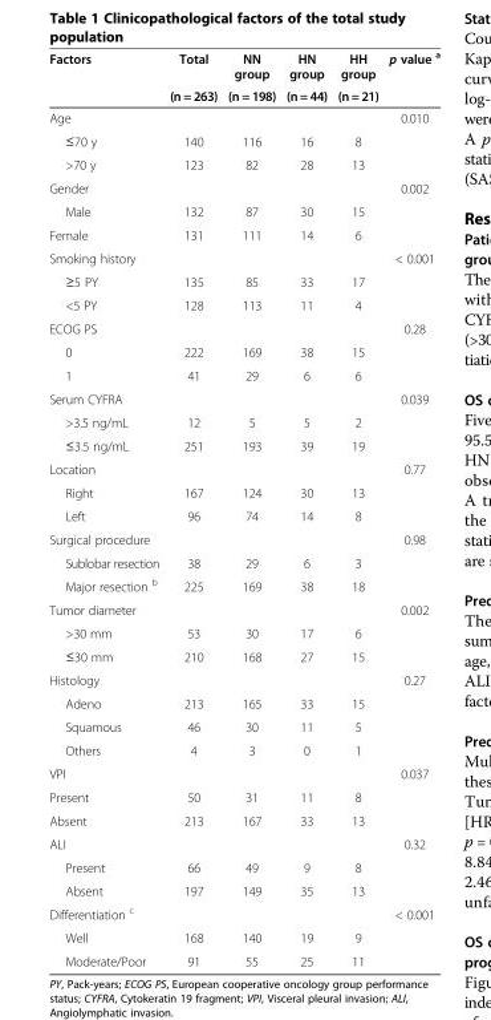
<table><thead><tr><td rowspan="2">Factors</td><td rowspan="2">Total (n = 263)</td><td rowspan="2">NN group (n = 198)</td><td rowspan="2">HN group (n = 44)</td><td rowspan="2">HH group (n = 21)</td><td rowspan="2">p value <sup>a</sup></td></tr><tr></tr></thead><tbody><tr><td>Age</td><td></td><td></td><td></td><td></td><td>0.010</td></tr><tr><td>≤70 y</td><td>140</td><td>116</td><td>16</td><td>8</td><td></td></tr><tr><td>&gt;70 y</td><td>123</td><td>82</td><td>28</td><td>13</td><td></td></tr><tr><td>Gender</td><td></td><td></td><td></td><td></td><td>0.002</td></tr><tr><td>Male</td><td>132</td><td>87</td><td>30</td><td>15</td><td></td></tr><tr><td>Female</td><td>131</td><td>111</td><td>14</td><td>6</td><td></td></tr><tr><td>Smoking history</td><td></td><td></td><td></td><td></td><td>&lt; 0.001</td></tr><tr><td>≥5 PY</td><td>135</td><td>85</td><td>33</td><td>17</td><td></td></tr><tr><td>&lt;5 PY</td><td>128</td><td>113</td><td>11</td><td>4</td><td></td></tr><tr><td>ECOG PS</td><td></td><td></td><td></td><td></td><td>0.28</td></tr><tr><td>0</td><td>222</td><td>169</td><td>38</td><td>15</td><td></td></tr><tr><td>1</td><td>41</td><td>29</td><td>6</td><td>6</td><td></td></tr><tr><td>Serum CYFRA</td><td></td><td></td><td></td><td></td><td>0.039</td></tr><tr><td>&gt;3.5 ng/mL</td><td>12</td><td>5</td><td>5</td><td>2</td><td></td></tr><tr><td>≤3.5 ng/mL</td><td>251</td><td>193</td><td>39</td><td>19</td><td></td></tr><tr><td>Location</td><td></td><td></td><td></td><td></td><td>0.77</td></tr><tr><td>Right</td><td>167</td><td>124</td><td>30</td><td>13</td><td></td></tr><tr><td>Left</td><td>96</td><td>74</td><td>14</td><td>8</td><td></td></tr><tr><td>Surgical procedure</td><td></td><td></td><td></td><td></td><td>0.98</td></tr><tr><td>Sublobar resection</td><td>38</td><td>29</td><td>6</td><td>3</td><td></td></tr><tr><td>Major resection <sup>b</sup></td><td>225</td><td>169</td><td>38</td><td>18</td><td></td></tr><tr><td>Tumor diameter</td><td></td><td></td><td></td><td></td><td>0.002</td></tr><tr><td>&gt;30 mm</td><td>53</td><td>30</td><td>17</td><td>6</td><td></td></tr><tr><td>≤30 mm</td><td>210</td><td>168</td><td>27</td><td>15</td><td></td></tr><tr><td>Histology</td><td></td><td></td><td></td><td></td><td>0.27</td></tr><tr><td>Adeno</td><td>213</td><td>165</td><td>33</td><td>15</td><td></td></tr><tr><td>Squamous</td><td>46</td><td>30</td><td>11</td><td>5</td><td></td></tr><tr><td>Others</td><td>4</td><td>3</td><td>0</td><td>1</td><td></td></tr><tr><td>VPI</td><td></td><td></td><td></td><td></td><td>0.037</td></tr><tr><td>Present</td><td>50</td><td>31</td><td>11</td><td>8</td><td></td></tr><tr><td>Absent</td><td>213</td><td>167</td><td>33</td><td>13</td><td></td></tr><tr><td>ALI</td><td></td><td></td><td></td><td></td><td>0.32</td></tr><tr><td>Present</td><td>66</td><td>49</td><td>9</td><td>8</td><td></td></tr><tr><td>Absent</td><td>197</td><td>149</td><td>35</td><td>13</td><td></td></tr><tr><td>Differentiation <sup>c</sup></td><td></td><td></td><td></td><td></td><td>&lt; 0.001</td></tr><tr><td>Well</td><td>168</td><td>140</td><td>19</td><td>9</td><td></td></tr><tr><td>Moderate/Poor</td><td>91</td><td>55</td><td>25</td><td>11</td><td></td></tr></tbody></table>